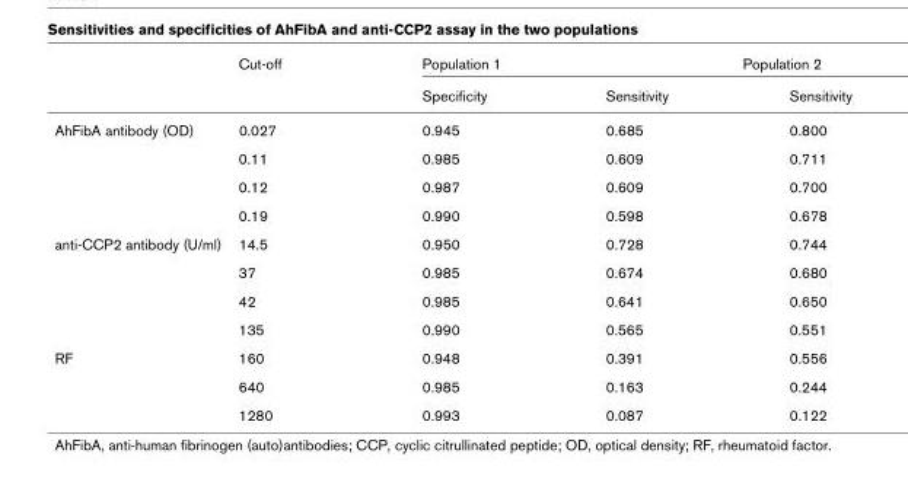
<table><thead><tr><td rowspan="2"></td><td rowspan="2">Cut-off</td><td rowspan="2">Population 1 Specificity</td><td colspan="2">Population 2</td></tr><tr><td>Sensitivity</td><td>Sensitivity</td></tr></thead><tbody><tr><td rowspan="4">AhFibA antibody (OD)</td><td>0.027</td><td>0.945</td><td>0.685</td><td>0.800</td></tr><tr><td>0.11</td><td>0.985</td><td>0.609</td><td>0.711</td></tr><tr><td>0.12</td><td>0.987</td><td>0.609</td><td>0.700</td></tr><tr><td>0.19</td><td>0.990</td><td>0.598</td><td>0.678</td></tr><tr><td rowspan="4">anti-CCP2 antibody (U/ml)</td><td>14.5</td><td>0.950</td><td>0.728</td><td>0.744</td></tr><tr><td>37</td><td>0.985</td><td>0.674</td><td>0.680</td></tr><tr><td>42</td><td>0.985</td><td>0.641</td><td>0.650</td></tr><tr><td>135</td><td>0.990</td><td>0.565</td><td>0.551</td></tr><tr><td rowspan="3">RF</td><td>160</td><td>0.948</td><td>0.391</td><td>0.556</td></tr><tr><td>640</td><td>0.985</td><td>0.163</td><td>0.244</td></tr><tr><td>1280</td><td>0.993</td><td>0.087</td><td>0.122</td></tr></tbody></table>